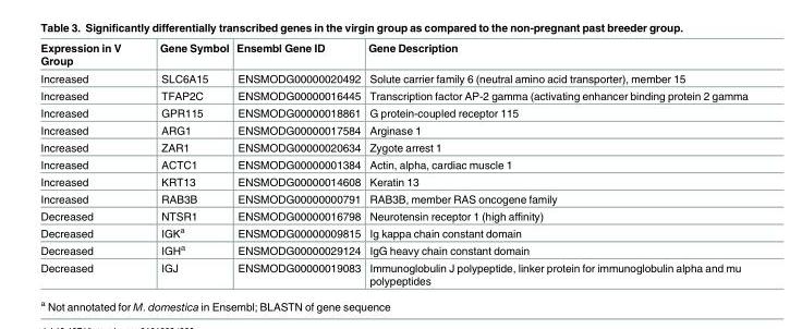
<table><thead><tr><td>Expression in V Group</td><td>Gene Symbol</td><td>Ensembl Gene ID</td><td>Gene Description</td></tr></thead><tbody><tr><td>Increased</td><td>SLC6A15</td><td>ENSMODG00000020492</td><td>Solute carrier family 6 (neutral amino acid transporter), member 15</td></tr><tr><td>Increased</td><td>TFAP2C</td><td>ENSMODG00000016445</td><td>Transcription factor AP-2 gamma (activating enhancer binding protein 2 gamma</td></tr><tr><td>Increased</td><td>GPR115</td><td>ENSMODG00000018861</td><td>G protein-coupled receptor 115</td></tr><tr><td>Increased</td><td>ARG1</td><td>ENSMODG00000017584</td><td>Arginase 1</td></tr><tr><td>Increased</td><td>ZAR1</td><td>ENSMODG00000020634</td><td>Zygote arrest 1</td></tr><tr><td>Increased</td><td>ACTC1</td><td>ENSMODG00000001384</td><td>Actin, alpha, cardiac muscle 1</td></tr><tr><td>Increased</td><td>KRT13</td><td>ENSMODG00000014608</td><td>Keratin 13</td></tr><tr><td>Increased</td><td>RAB3B</td><td>ENSMODG00000000791</td><td>RAB3B, member RAS oncogene family</td></tr><tr><td>Decreased</td><td>NTSR1</td><td>ENSMODG00000016798</td><td>Neurotensin receptor 1 (high affinity)</td></tr><tr><td>Decreased</td><td>IGK<sup>a</sup></td><td>ENSMODG00000009815</td><td>Ig kappa chain constant domain</td></tr><tr><td>Decreased</td><td>IGH<sup>a</sup></td><td>ENSMODG00000029124</td><td>IgG heavy chain constant domain</td></tr><tr><td>Decreased</td><td>IGJ</td><td>ENSMODG00000019083</td><td>Immunoglobulin J polypeptide, linker protein for immunoglobulin alpha and mu polypeptides</td></tr></tbody></table>